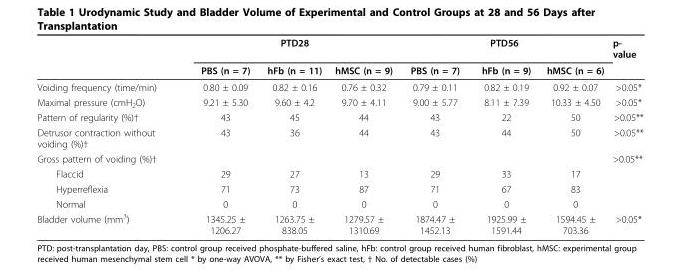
<table><thead><tr><td rowspan="2"></td><td colspan="3">PTD28</td><td colspan="3">PTD56</td><td rowspan="2">p- value</td></tr><tr><td>PBS (n = 7)</td><td>hFb (n = 11)</td><td>hMSC (n = 9)</td><td>PBS (n = 7)</td><td>hFb (n = 9)</td><td>hMSC (n = 6)</td></tr></thead><tbody><tr><td>Voiding frequency (time/min)</td><td>0.80 ± 0.09</td><td>0.82 ± 0.16</td><td>0.76 ± 0.32</td><td>0.79 ± 0.11</td><td>0.82 ± 0.19</td><td>0.92 ± 0.07</td><td>&gt;0.05*</td></tr><tr><td>Maximal pressure (cmH<sub>2</sub>O)</td><td>9.21 ± 5.30</td><td>9.60 ± 4.2</td><td>9.70 ± 4.11</td><td>9.00 ± 5.77</td><td>8.11 ± 7.39</td><td>10.33 ± 4.50</td><td>&gt;0.05*</td></tr><tr><td>Pattern of regularity (%)†</td><td>43</td><td>45</td><td>44</td><td>43</td><td>22</td><td>50</td><td>&gt;0.05**</td></tr><tr><td>Detrusor contraction without voiding (%)†</td><td>43</td><td>36</td><td>44</td><td>43</td><td>44</td><td>50</td><td>&gt;0.05**</td></tr><tr><td>Gross pattern of voiding (%)†</td><td></td><td></td><td></td><td></td><td></td><td></td><td>&gt;0.05**</td></tr><tr><td>Flaccid</td><td>29</td><td>27</td><td>13</td><td>29</td><td>33</td><td>17</td><td></td></tr><tr><td>Hyperreflexia</td><td>71</td><td>73</td><td>87</td><td>71</td><td>67</td><td>83</td><td></td></tr><tr><td>Normal</td><td>0</td><td>0</td><td>0</td><td>0</td><td>0</td><td>0</td><td></td></tr><tr><td>Bladder volume (mm3)</td><td>1345.25 ± 1206.27</td><td>1263.75 ± 838.05</td><td>1279.57 ± 1310.69</td><td>1874.47 ± 1452.13</td><td>1925.99 ± 1591.44</td><td>1594.45 ± 703.36</td><td>&gt;0.05*</td></tr></tbody></table>